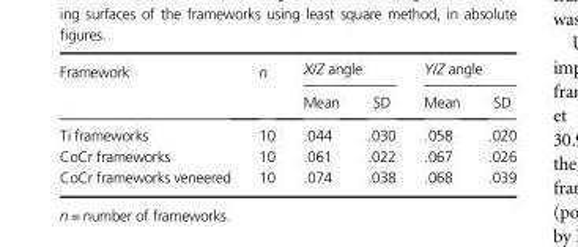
<table><thead><tr><td rowspan="2">Framework</td><td rowspan="2">n</td><td colspan="2">X/Z angle</td><td colspan="2">Y/Z angle</td></tr><tr><td>Mean</td><td>SD</td><td>Mean</td><td>SD</td></tr></thead><tbody><tr><td>Ti frameworks</td><td>10</td><td>.044</td><td>.030</td><td>.058</td><td>.020</td></tr><tr><td>CoCr frameworks</td><td>10</td><td>.061</td><td>.022</td><td>.067</td><td>.026</td></tr><tr><td>CoCr frameworks veneered</td><td>10</td><td>.074</td><td>.038</td><td>.068</td><td>.039</td></tr></tbody></table>